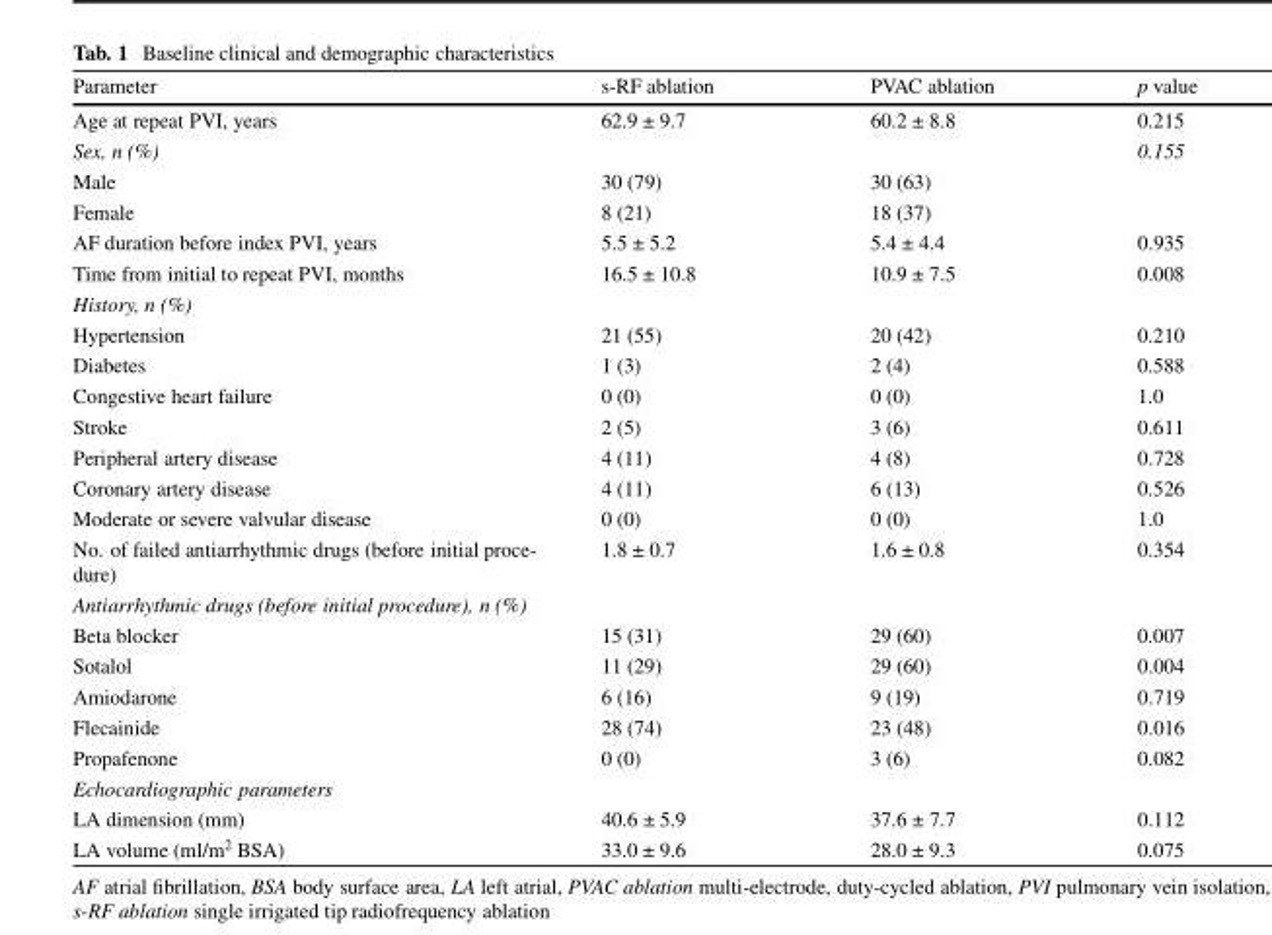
<table><thead><tr><td>Parameter</td><td>s-RF ablation</td><td>PVAC ablation</td><td>p value</td></tr></thead><tbody><tr><td>Age at repeat PVI, years</td><td>62.9 ± 9.7</td><td>60.2 ± 8.8</td><td>0.215</td></tr><tr><td>Sex, n (%)</td><td></td><td></td><td>0.155</td></tr><tr><td>Male</td><td>30 (79)</td><td>30 (63)</td><td></td></tr><tr><td>Female</td><td>8 (21)</td><td>18 (37)</td><td></td></tr><tr><td>AF duration before index PVI, years</td><td>5.5 ± 5.2</td><td>5.4 ± 4.4</td><td>0.935</td></tr><tr><td>Time from initial to repeat PVI, months</td><td>16.5 ± 10.8</td><td>10.9 ± 7.5</td><td>0.008</td></tr><tr><td colspan="4">History, n (%)</td></tr><tr><td>Hypertension</td><td>21 (55)</td><td>20 (42)</td><td>0.210</td></tr><tr><td>Diabetes</td><td>1 (3)</td><td>2 (4)</td><td>0.588</td></tr><tr><td>Congestive heart failure</td><td>0 (0)</td><td>0 (0)</td><td>1.0</td></tr><tr><td>Stroke</td><td>2 (5)</td><td>3 (6)</td><td>0.611</td></tr><tr><td>Peripheral artery disease</td><td>4 (11)</td><td>4 (8)</td><td>0.728</td></tr><tr><td>Coronary artery disease</td><td>4 (11)</td><td>6 (13)</td><td>0.526</td></tr><tr><td>Moderate or severe valvular disease</td><td>0 (0)</td><td>0 (0)</td><td>1.0</td></tr><tr><td>No. of failed antiarrhythmic drugs (before initial proce- dure)</td><td>1.8 ± 0.7</td><td>1.6 ± 0.8</td><td>0.354</td></tr><tr><td colspan="4">Antiarrhythmic drugs (before initial procedure), n (%)</td></tr><tr><td>Beta blocker</td><td>15 (31)</td><td>29 (60)</td><td>0.007</td></tr><tr><td>Sotalol</td><td>11 (29)</td><td>29 (60)</td><td>0.004</td></tr><tr><td>Amiodarone</td><td>6 (16)</td><td>9 (19)</td><td>0.719</td></tr><tr><td>Flecainide</td><td>28 (74)</td><td>23 (48)</td><td>0.016</td></tr><tr><td>Propafenone</td><td>0 (0)</td><td>3 (6)</td><td>0.082</td></tr><tr><td colspan="4">Echocardiographic parameters</td></tr><tr><td>LA dimension (mm)</td><td>40.6 ± 5.9</td><td>37.6 ± 7.7</td><td>0.112</td></tr><tr><td>LA volume (ml/m<sup>2</sup> BSA)</td><td>33.0 ± 9.6</td><td>28.0 ± 9.3</td><td>0.075</td></tr></tbody></table>